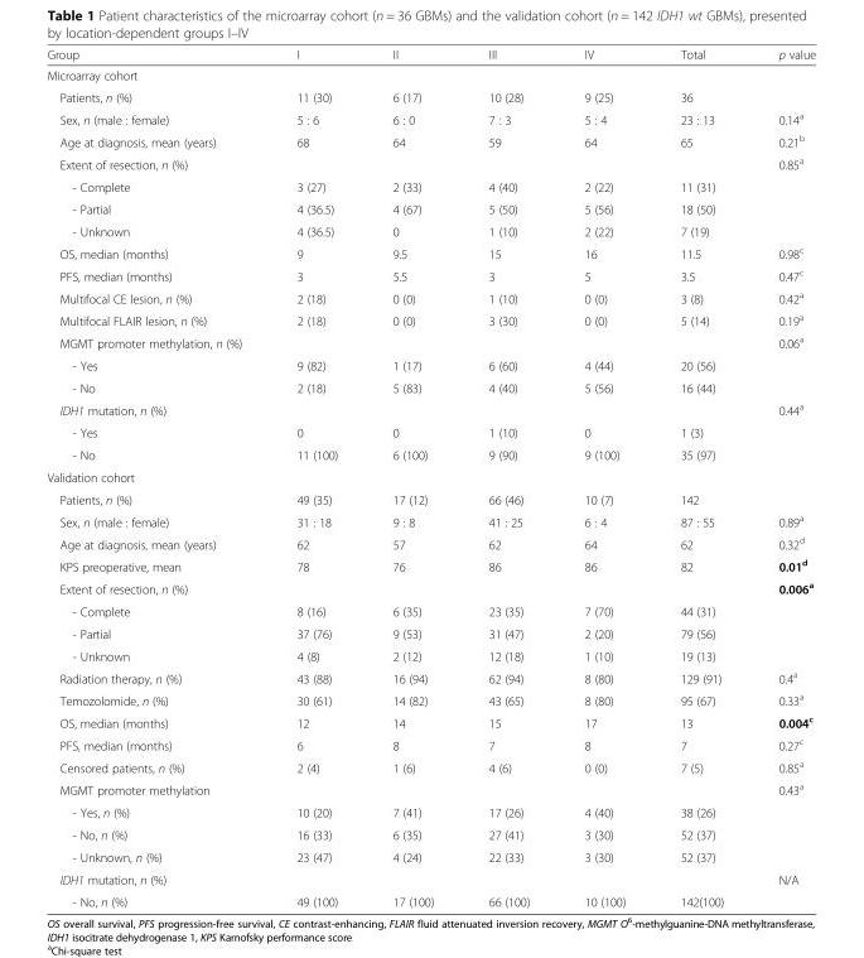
<table><thead><tr><td>Group</td><td>I</td><td>II</td><td>III</td><td>IV</td><td>Total</td><td>p value</td></tr></thead><tbody><tr><td colspan="7">Microarray cohort</td></tr><tr><td>Patients, n (%)</td><td>11 (30)</td><td>6 (17)</td><td>10 (28)</td><td>9 (25)</td><td>36</td><td></td></tr><tr><td>Sex, n (male : female)</td><td>5 : 6</td><td>6 : 0</td><td>7 : 3</td><td>5 : 4</td><td>23 : 13</td><td>0.14<sup>a</sup></td></tr><tr><td>Age at diagnosis, mean (years)</td><td>68</td><td>64</td><td>59</td><td>64</td><td>65</td><td>0.21<sup>b</sup></td></tr><tr><td>Extent of resection, n (%)</td><td></td><td></td><td></td><td></td><td></td><td>0.85<sup>a</sup></td></tr><tr><td>- Complete</td><td>3 (27)</td><td>2 (33)</td><td>4 (40)</td><td>2 (22)</td><td>11 (31)</td><td></td></tr><tr><td>- Partial</td><td>4 (36.5)</td><td>4 (67)</td><td>5 (50)</td><td>5 (56)</td><td>18 (50)</td><td></td></tr><tr><td>- Unknown</td><td>4 (36.5)</td><td>0</td><td>1 (10)</td><td>2 (22)</td><td>7 (19)</td><td></td></tr><tr><td>OS, median (months)</td><td>9</td><td>9.5</td><td>15</td><td>16</td><td>11.5</td><td>0.98<sup>c</sup></td></tr><tr><td>PFS, median (months)</td><td>3</td><td>5.5</td><td>3</td><td>5</td><td>3.5</td><td>0.47<sup>c</sup></td></tr><tr><td>Multifocal CE lesion, n (%)</td><td>2 (18)</td><td>0 (0)</td><td>1 (10)</td><td>0 (0)</td><td>3 (8)</td><td>0.42<sup>a</sup></td></tr><tr><td>Multifocal FLAIR lesion, n (%)</td><td>2 (18)</td><td>0 (0)</td><td>3 (30)</td><td>0 (0)</td><td>5 (14)</td><td>0.19<sup>a</sup></td></tr><tr><td>MGMT promoter methylation, n (%)</td><td></td><td></td><td></td><td></td><td></td><td>0.06<sup>a</sup></td></tr><tr><td>- Yes</td><td>9 (82)</td><td>1 (17)</td><td>6 (60)</td><td>4 (44)</td><td>20 (56)</td><td></td></tr><tr><td>- No</td><td>2 (18)</td><td>5 (83)</td><td>4 (40)</td><td>5 (56)</td><td>16 (44)</td><td></td></tr><tr><td>IDH1 mutation, n (%)</td><td></td><td></td><td></td><td></td><td></td><td>0.44<sup>a</sup></td></tr><tr><td>- Yes</td><td>0</td><td>0</td><td>1 (10)</td><td>0</td><td>1 (3)</td><td></td></tr><tr><td>- No</td><td>11 (100)</td><td>6 (100)</td><td>9 (90)</td><td>9 (100)</td><td>35 (97)</td><td></td></tr><tr><td colspan="7">Validation cohort</td></tr><tr><td>Patients, n (%)</td><td>49 (35)</td><td>17 (12)</td><td>66 (46)</td><td>10 (7)</td><td>142</td><td></td></tr><tr><td>Sex, n (male : female)</td><td>31 : 18</td><td>9 : 8</td><td>41 : 25</td><td>6 : 4</td><td>87 : 55</td><td>0.89<sup>a</sup></td></tr><tr><td>Age at diagnosis, mean (years)</td><td>62</td><td>57</td><td>62</td><td>64</td><td>62</td><td>0.32<sup>d</sup></td></tr><tr><td>KPS preoperative, mean</td><td>78</td><td>76</td><td>86</td><td>86</td><td>82</td><td>0.01<sup>d</sup></td></tr><tr><td>Extent of resection, n (%)</td><td></td><td></td><td></td><td></td><td></td><td>0.006<sup>a</sup></td></tr><tr><td>- Complete</td><td>8 (16)</td><td>6 (35)</td><td>23 (35)</td><td>7 (70)</td><td>44 (31)</td><td></td></tr><tr><td>- Partial</td><td>37 (76)</td><td>9 (53)</td><td>31 (47)</td><td>2 (20)</td><td>79 (56)</td><td></td></tr><tr><td>- Unknown</td><td>4 (8)</td><td>2 (12)</td><td>12 (18)</td><td>1 (10)</td><td>19 (13)</td><td></td></tr><tr><td>Radiation therapy, n (%)</td><td>43 (88)</td><td>16 (94)</td><td>62 (94)</td><td>8 (80)</td><td>129 (91)</td><td>0.4<sup>a</sup></td></tr><tr><td>Temozolomide, n (%)</td><td>30 (61)</td><td>14 (82)</td><td>43 (65)</td><td>8 (80)</td><td>95 (67)</td><td>0.33<sup>a</sup></td></tr><tr><td>OS, median (months)</td><td>12</td><td>14</td><td>15</td><td>17</td><td>13</td><td>0.004<sup>c</sup></td></tr><tr><td>PFS, median (months)</td><td>6</td><td>8</td><td>7</td><td>8</td><td>7</td><td>0.27<sup>c</sup></td></tr><tr><td>Censored patients, n (%)</td><td>2 (4)</td><td>1 (6)</td><td>4 (6)</td><td>0 (0)</td><td>7 (5)</td><td>0.85<sup>a</sup></td></tr><tr><td>MGMT promoter methylation</td><td></td><td></td><td></td><td></td><td></td><td>0.43<sup>a</sup></td></tr><tr><td>- Yes, n (%)</td><td>10 (20)</td><td>7 (41)</td><td>17 (26)</td><td>4 (40)</td><td>38 (26)</td><td></td></tr><tr><td>- No, n (%)</td><td>16 (33)</td><td>6 (35)</td><td>27 (41)</td><td>3 (30)</td><td>52 (37)</td><td></td></tr><tr><td>- Unknown, n (%)</td><td>23 (47)</td><td>4 (24)</td><td>22 (33)</td><td>3 (30)</td><td>52 (37)</td><td></td></tr><tr><td>IDH1 mutation, n (%)</td><td></td><td></td><td></td><td></td><td></td><td>N/A</td></tr><tr><td>- No, n (%)</td><td>49 (100)</td><td>17 (100)</td><td>66 (100)</td><td>10 (100)</td><td>142(100)</td><td></td></tr></tbody></table>